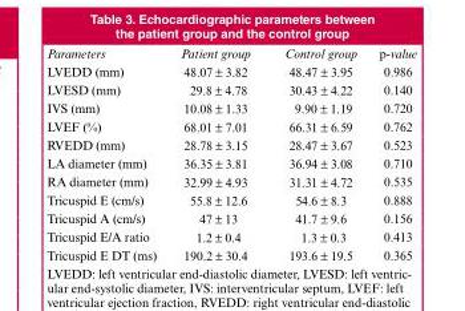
<table><thead><tr><td>Parameters</td><td>Patient group</td><td>Control group</td><td>p-value</td></tr></thead><tbody><tr><td>LVEDD (mm)</td><td>48.07 ± 3.82</td><td>48.47 ± 3.95</td><td>0.986</td></tr><tr><td>LVESD (mm)</td><td>29.8 ± 4.78</td><td>30.43 ± 4.22</td><td>0.140</td></tr><tr><td>IVS (mm)</td><td>10.08 ± 1.33</td><td>9.90 ± 1.19</td><td>0.720</td></tr><tr><td>LVEF (%)</td><td>68.01 ± 7.01</td><td>66.31 ± 6.59</td><td>0.762</td></tr><tr><td>RVEDD (mm)</td><td>28.78 ± 3.15</td><td>28.47 ± 3.67</td><td>0.523</td></tr><tr><td>LA diameter (mm)</td><td>36.35 ± 3.81</td><td>36.94 ± 3.08</td><td>0.710</td></tr><tr><td>RA diameter (mm)</td><td>32.99 ± 4.93</td><td>31.31 ± 4.72</td><td>0.535</td></tr><tr><td>Tricuspid E (cm/s)</td><td>55.8 ± 12.6</td><td>54.6 ± 8.3</td><td>0.888</td></tr><tr><td>Tricuspid A (cm/s)</td><td>47 ± 13</td><td>41.7 ± 9.6</td><td>0.156</td></tr><tr><td>Tricuspid E/A ratio</td><td>1.2 ± 0.4</td><td>1.3 ± 0.3</td><td>0.413</td></tr><tr><td>Tricuspid E DT (ms)</td><td>190.2 ± 30.4</td><td>193.6 ± 19.5</td><td>0.365</td></tr></tbody></table>